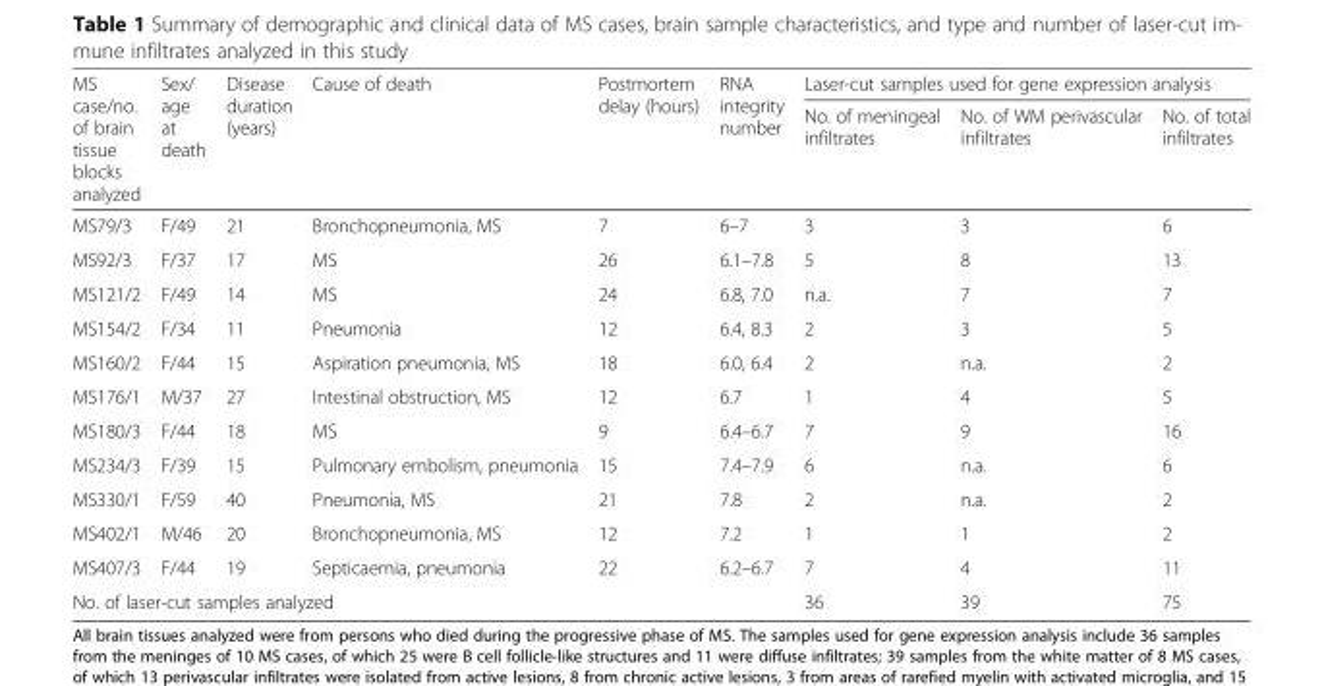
<table><thead><tr><td rowspan="2">MS case/no. of brain tissue blocks analyzed</td><td rowspan="2">Sex/ age at death</td><td rowspan="2">Disease duration (years)</td><td rowspan="2">Cause of death</td><td rowspan="2">Postmortem delay (hours)</td><td rowspan="2">RNA integrity number</td><td colspan="3">Laser-cut samples used for gene expression analysis</td></tr><tr><td>No. of meningeal infiltrates</td><td>No. of WM perivascular infiltrates</td><td>No. of total infiltrates</td></tr></thead><tbody><tr><td>MS79/3</td><td>F/49</td><td>21</td><td>Bronchopneumonia, MS</td><td>7</td><td>6–7</td><td>3</td><td>3</td><td>6</td></tr><tr><td>MS92/3</td><td>F/37</td><td>17</td><td>MS</td><td>26</td><td>6.1–7.8</td><td>5</td><td>8</td><td>13</td></tr><tr><td>MS121/2</td><td>F/49</td><td>14</td><td>MS</td><td>24</td><td>6.8, 7.0</td><td>n.a.</td><td>7</td><td>7</td></tr><tr><td>MS154/2</td><td>F/34</td><td>11</td><td>Pneumonia</td><td>12</td><td>6.4, 8.3</td><td>2</td><td>3</td><td>5</td></tr><tr><td>MS160/2</td><td>F/44</td><td>15</td><td>Aspiration pneumonia, MS</td><td>18</td><td>6.0, 6.4</td><td>2</td><td>n.a.</td><td>2</td></tr><tr><td>MS176/1</td><td>M/37</td><td>27</td><td>Intestinal obstruction, MS</td><td>12</td><td>6.7</td><td>1</td><td>4</td><td>5</td></tr><tr><td>MS180/3</td><td>F/44</td><td>18</td><td>MS</td><td>9</td><td>6.4–6.7</td><td>7</td><td>9</td><td>16</td></tr><tr><td>MS234/3</td><td>F/39</td><td>15</td><td>Pulmonary embolism, pneumonia</td><td>15</td><td>7.4–7.9</td><td>6</td><td>n.a.</td><td>6</td></tr><tr><td>MS330/1</td><td>F/59</td><td>40</td><td>Pneumonia, MS</td><td>21</td><td>7.8</td><td>2</td><td>n.a.</td><td>2</td></tr><tr><td>MS402/1</td><td>M/46</td><td>20</td><td>Bronchopneumonia, MS</td><td>12</td><td>7.2</td><td>1</td><td>1</td><td>2</td></tr><tr><td>MS407/3</td><td>F/44</td><td>19</td><td>Septicaemia, pneumonia</td><td>22</td><td>6.2–6.7</td><td>7</td><td>4</td><td>11</td></tr><tr><td colspan="6">No. of laser-cut samples analyzed</td><td>36</td><td>39</td><td>75</td></tr></tbody></table>